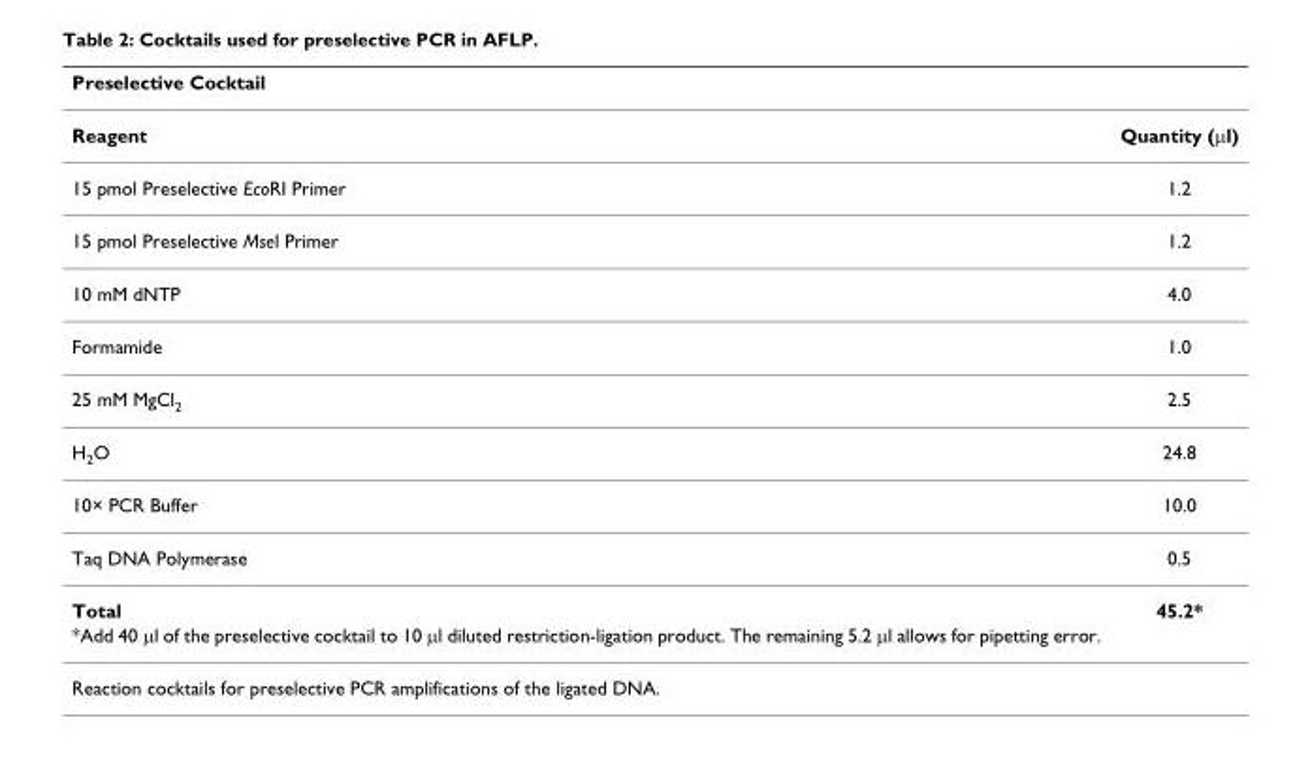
<table><thead><tr><td>Preselective Cocktail</td><td></td></tr></thead><tbody><tr><td>Reagent</td><td>Quantity (μl)</td></tr><tr><td>15 pmol Preselective EcoRI Primer</td><td>1.2</td></tr><tr><td>15 pmol Preselective Msel Primer</td><td>1.2</td></tr><tr><td>10 mM dNTP</td><td>4.0</td></tr><tr><td>Formamide</td><td>1.0</td></tr><tr><td>25 mM MgCl<sub>2</sub></td><td>2.5</td></tr><tr><td>H<sub>2</sub>O</td><td>24.8</td></tr><tr><td>10× PCR Buffer</td><td>10.0</td></tr><tr><td>Taq DNA Polymerase</td><td>0.5</td></tr><tr><td>Total</td><td>45.2*</td></tr><tr><td colspan="2">*Add 40 μl of the preselective cocktail to 10 μl diluted restriction-ligation product. The remaining 5.2 μl allows for pipetting error.</td></tr><tr><td>Reaction cocktails for preselective PCR amplifications of the ligated DNA.</td><td></td></tr></tbody></table>